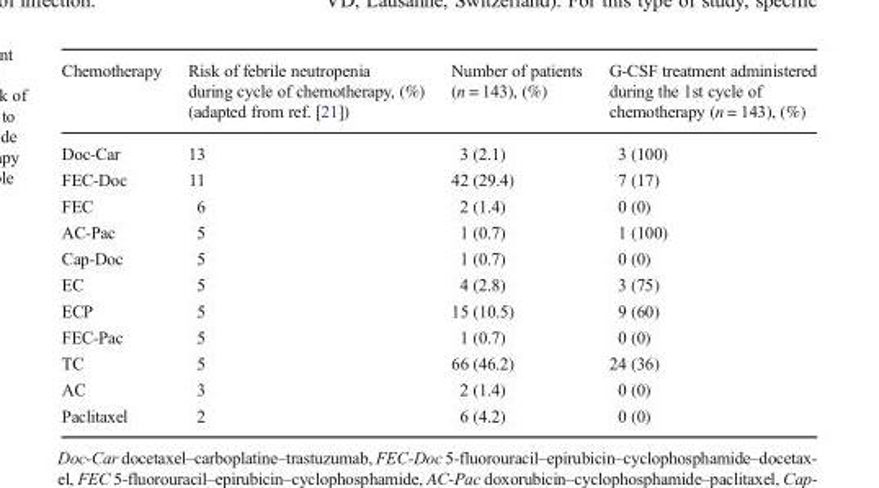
<table><thead><tr><td>Chemotherapy</td><td>Risk of febrile neutropenia during cycle of chemotherapy, (%) (adapted from ref. [21])</td><td>Number of patients (n = 143), (%)</td><td>G-CSF treatment administered during the 1st cycle of chemotherapy (n = 143), (%)</td></tr></thead><tbody><tr><td>Doc-Car</td><td>13</td><td>3 (2.1)</td><td>3 (100)</td></tr><tr><td>FEC-Doc</td><td>11</td><td>42 (29.4)</td><td>7 (17)</td></tr><tr><td>FEC</td><td>6</td><td>2 (1.4)</td><td>0 (0)</td></tr><tr><td>AC-Pac</td><td>5</td><td>1 (0.7)</td><td>1 (100)</td></tr><tr><td>Cap-Doc</td><td>5</td><td>1 (0.7)</td><td>0 (0)</td></tr><tr><td>EC</td><td>5</td><td>4 (2.8)</td><td>3 (75)</td></tr><tr><td>ECP</td><td>5</td><td>15 (10.5)</td><td>9 (60)</td></tr><tr><td>FEC-Pac</td><td>5</td><td>1 (0.7)</td><td>0 (0)</td></tr><tr><td>TC</td><td>5</td><td>66 (46.2)</td><td>24 (36)</td></tr><tr><td>AC</td><td>3</td><td>2 (1.4)</td><td>0 (0)</td></tr><tr><td>Paclitaxel</td><td>2</td><td>6 (4.2)</td><td>0 (0)</td></tr></tbody></table>